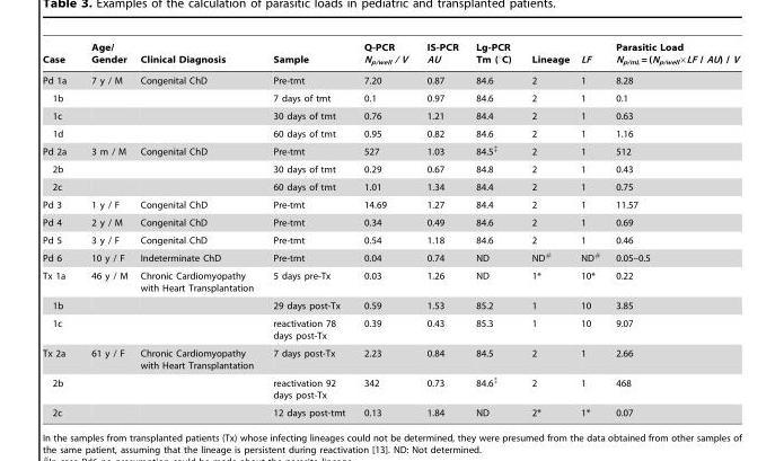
<table><thead><tr><td>Case</td><td>Age/ Gender</td><td>Clinical Diagnosis</td><td>Sample</td><td>Q-PCR N<sub>p/well</sub> / V</td><td>IS-PCR AU</td><td>Lg-PCR Tm (°C)</td><td>Lineage</td><td>LF</td><td>Parasitic Load N<sub>p/mL</sub> = (N<sub>p/well</sub>×LF / AU) / V</td></tr></thead><tbody><tr><td>Pd 1a</td><td>7 y / M</td><td>Congenital ChD</td><td>Pre-tmt</td><td>7.20</td><td>0.87</td><td>84.6</td><td>2</td><td>1</td><td>8.28</td></tr><tr><td>1b</td><td></td><td></td><td>7 days of tmt</td><td>0.1</td><td>0.97</td><td>84.6</td><td>2</td><td>1</td><td>0.1</td></tr><tr><td>1c</td><td></td><td></td><td>30 days of tmt</td><td>0.76</td><td>1.21</td><td>84.4</td><td>2</td><td>1</td><td>0.63</td></tr><tr><td>1d</td><td></td><td></td><td>60 days of tmt</td><td>0.95</td><td>0.82</td><td>84.6</td><td>2</td><td>1</td><td>1.16</td></tr><tr><td>Pd 2a</td><td>3 m / M</td><td>Congenital ChD</td><td>Pre-tmt</td><td>527</td><td>1.03</td><td>84.5‡</td><td>2</td><td>1</td><td>512</td></tr><tr><td>2b</td><td></td><td></td><td>30 days of tmt</td><td>0.29</td><td>0.67</td><td>84.8</td><td>2</td><td>1</td><td>0.43</td></tr><tr><td>2c</td><td></td><td></td><td>60 days of tmt</td><td>1.01</td><td>1.34</td><td>84.4</td><td>2</td><td>1</td><td>0.75</td></tr><tr><td>Pd 3</td><td>1 y / F</td><td>Congenital ChD</td><td>Pre-tmt</td><td>14.69</td><td>1.27</td><td>84.4</td><td>2</td><td>1</td><td>11.57</td></tr><tr><td>Pd 4</td><td>2 y / M</td><td>Congenital ChD</td><td>Pre-tmt</td><td>0.34</td><td>0.49</td><td>84.6</td><td>2</td><td>1</td><td>0.69</td></tr><tr><td>Pd 5</td><td>3 y / F</td><td>Congenital ChD</td><td>Pre-tmt</td><td>0.54</td><td>1.18</td><td>84.6</td><td>2</td><td>1</td><td>0.46</td></tr><tr><td>Pd 6</td><td>10 y / F</td><td>Indeterminate ChD</td><td>Pre-tmt</td><td>0.04</td><td>0.74</td><td>ND</td><td>ND#</td><td>ND#</td><td>0.05–0.5</td></tr><tr><td>Tx 1a</td><td>46 y / M</td><td>Chronic Cardiomyopathy with Heart Transplantation</td><td>5 days pre-Tx</td><td>0.03</td><td>1.26</td><td>ND</td><td>1*</td><td>10*</td><td>0.22</td></tr><tr><td>1b</td><td></td><td></td><td>29 days post-Tx</td><td>0.59</td><td>1.53</td><td>85.2</td><td>1</td><td>10</td><td>3.85</td></tr><tr><td>1c</td><td></td><td></td><td>reactivation 78 days post-Tx</td><td>0.39</td><td>0.43</td><td>85.3</td><td>1</td><td>10</td><td>9.07</td></tr><tr><td>Tx 2a</td><td>61 y / F</td><td>Chronic Cardiomyopathy with Heart Transplantation</td><td>7 days post-Tx</td><td>2.23</td><td>0.84</td><td>84.5</td><td>2</td><td>1</td><td>2.66</td></tr><tr><td>2b</td><td></td><td></td><td>reactivation 92 days post-Tx</td><td>342</td><td>0.73</td><td>84.6‡</td><td>2</td><td>1</td><td>468</td></tr><tr><td>2c</td><td></td><td></td><td>12 days post-tmt</td><td>0.13</td><td>1.84</td><td>ND</td><td>2*</td><td>1*</td><td>0.07</td></tr></tbody></table>